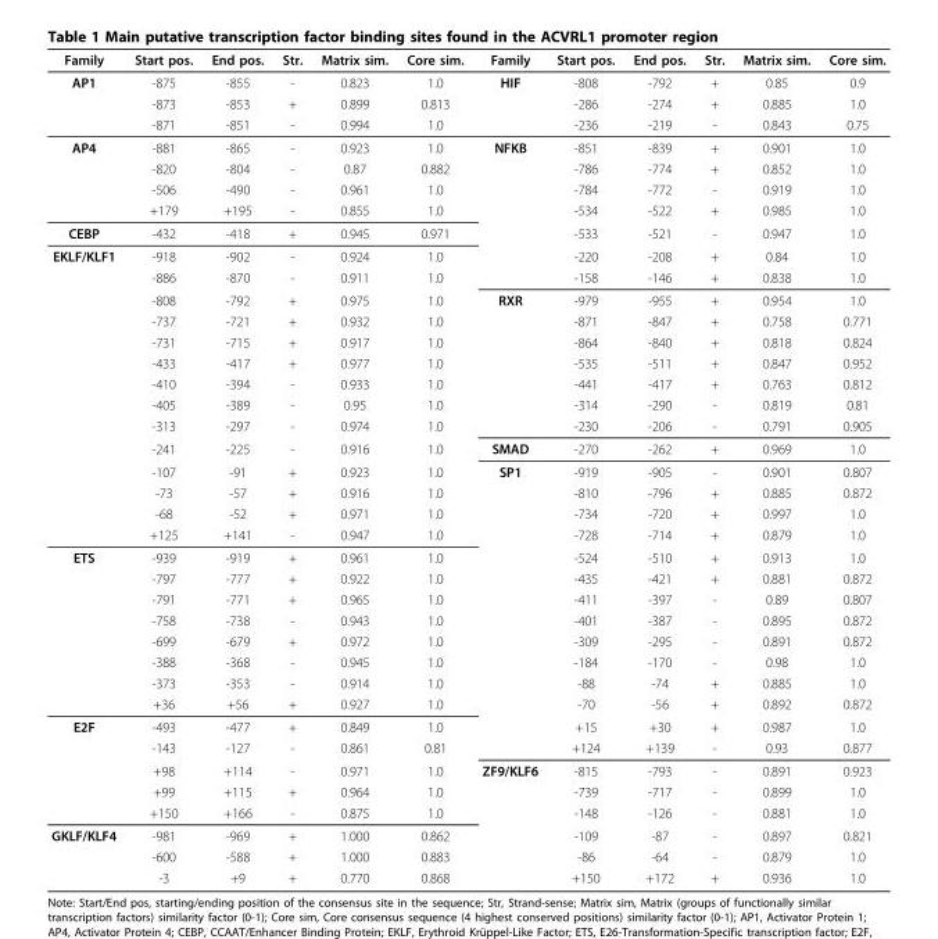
<table><thead><tr><td>Family</td><td>Start pos.</td><td>End pos.</td><td>Str.</td><td>Matrix sim.</td><td>Core sim.</td><td>Family</td><td>Start pos.</td><td>End pos.</td><td>Str.</td><td>Matrix sim.</td><td>Core sim.</td></tr></thead><tbody><tr><td rowspan="3">AP1</td><td>-875</td><td>-855</td><td>-</td><td>0.823</td><td>1.0</td><td>HIF</td><td>-808</td><td>-792</td><td>+</td><td>0.85</td><td>0.9</td></tr><tr><td>-873</td><td>-853</td><td>+</td><td>0.899</td><td>0.813</td><td></td><td>-286</td><td>-274</td><td>+</td><td>0.885</td><td>1.0</td></tr><tr><td>-871</td><td>-851</td><td>-</td><td>0.994</td><td>1.0</td><td></td><td>-236</td><td>-219</td><td>-</td><td>0.843</td><td>0.75</td></tr><tr><td rowspan="4">AP4</td><td>-881</td><td>-865</td><td>-</td><td>0.923</td><td>1.0</td><td>NFKB</td><td>-851</td><td>-839</td><td>+</td><td>0.901</td><td>1.0</td></tr><tr><td>-820</td><td>-804</td><td>-</td><td>0.87</td><td>0.882</td><td></td><td>-786</td><td>-774</td><td>+</td><td>0.852</td><td>1.0</td></tr><tr><td>-506</td><td>-490</td><td>-</td><td>0.961</td><td>1.0</td><td></td><td>-784</td><td>-772</td><td>-</td><td>0.919</td><td>1.0</td></tr><tr><td>+179</td><td>+195</td><td>-</td><td>0.855</td><td>1.0</td><td></td><td>-534</td><td>-522</td><td>+</td><td>0.985</td><td>1.0</td></tr><tr><td>CEBP</td><td>-432</td><td>-418</td><td>+</td><td>0.945</td><td>0.971</td><td></td><td>-533</td><td>-521</td><td>-</td><td>0.947</td><td>1.0</td></tr><tr><td rowspan="14">EKLF/KLF1</td><td>-918</td><td>-902</td><td>-</td><td>0.924</td><td>1.0</td><td></td><td>-220</td><td>-208</td><td>+</td><td>0.84</td><td>1.0</td></tr><tr><td>-886</td><td>-870</td><td>-</td><td>0.911</td><td>1.0</td><td></td><td>-158</td><td>-146</td><td>+</td><td>0.838</td><td>1.0</td></tr><tr><td>-808</td><td>-792</td><td>+</td><td>0.975</td><td>1.0</td><td>RXR</td><td>-979</td><td>-955</td><td>+</td><td>0.954</td><td>1.0</td></tr><tr><td>-737</td><td>-721</td><td>+</td><td>0.932</td><td>1.0</td><td></td><td>-871</td><td>-847</td><td>+</td><td>0.758</td><td>0.771</td></tr><tr><td>-731</td><td>-715</td><td>+</td><td>0.917</td><td>1.0</td><td></td><td>-864</td><td>-840</td><td>+</td><td>0.818</td><td>0.824</td></tr><tr><td>-433</td><td>-417</td><td>+</td><td>0.977</td><td>1.0</td><td></td><td>-535</td><td>-511</td><td>+</td><td>0.847</td><td>0.952</td></tr><tr><td>-410</td><td>-394</td><td>-</td><td>0.933</td><td>1.0</td><td></td><td>-441</td><td>-417</td><td>+</td><td>0.763</td><td>0.812</td></tr><tr><td>-405</td><td>-389</td><td>-</td><td>0.95</td><td>1.0</td><td></td><td>-314</td><td>-290</td><td>-</td><td>0.819</td><td>0.81</td></tr><tr><td>-313</td><td>-297</td><td>-</td><td>0.974</td><td>1.0</td><td></td><td>-230</td><td>-206</td><td>-</td><td>0.791</td><td>0.905</td></tr><tr><td>-241</td><td>-225</td><td>-</td><td>0.916</td><td>1.0</td><td>SMAD</td><td>-270</td><td>-262</td><td>+</td><td>0.969</td><td>1.0</td></tr><tr><td>-107</td><td>-91</td><td>+</td><td>0.923</td><td>1.0</td><td>SP1</td><td>-919</td><td>-905</td><td>-</td><td>0.901</td><td>0.807</td></tr><tr><td>-73</td><td>-57</td><td>+</td><td>0.916</td><td>1.0</td><td></td><td>-810</td><td>-796</td><td>+</td><td>0.885</td><td>0.872</td></tr><tr><td>-68</td><td>-52</td><td>+</td><td>0.971</td><td>1.0</td><td></td><td>-734</td><td>-720</td><td>+</td><td>0.997</td><td>1.0</td></tr><tr><td>+125</td><td>+141</td><td>-</td><td>0.947</td><td>1.0</td><td></td><td>-728</td><td>-714</td><td>+</td><td>0.879</td><td>1.0</td></tr><tr><td rowspan="8">ETS</td><td>-939</td><td>-919</td><td>+</td><td>0.961</td><td>1.0</td><td></td><td>-524</td><td>-510</td><td>+</td><td>0.913</td><td>1.0</td></tr><tr><td>-797</td><td>-777</td><td>+</td><td>0.922</td><td>1.0</td><td></td><td>-435</td><td>-421</td><td>+</td><td>0.881</td><td>0.872</td></tr><tr><td>-791</td><td>-771</td><td>+</td><td>0.965</td><td>1.0</td><td></td><td>-411</td><td>-397</td><td>-</td><td>0.89</td><td>0.807</td></tr><tr><td>-758</td><td>-738</td><td>-</td><td>0.943</td><td>1.0</td><td></td><td>-401</td><td>-387</td><td>-</td><td>0.895</td><td>0.872</td></tr><tr><td>-699</td><td>-679</td><td>+</td><td>0.972</td><td>1.0</td><td></td><td>-309</td><td>-295</td><td>-</td><td>0.891</td><td>0.872</td></tr><tr><td>-388</td><td>-368</td><td>-</td><td>0.945</td><td>1.0</td><td></td><td>-184</td><td>-170</td><td>-</td><td>0.98</td><td>1.0</td></tr><tr><td>-373</td><td>-353</td><td>-</td><td>0.914</td><td>1.0</td><td></td><td>-88</td><td>-74</td><td>+</td><td>0.885</td><td>1.0</td></tr><tr><td>+36</td><td>+56</td><td>+</td><td>0.927</td><td>1.0</td><td></td><td>-70</td><td>-56</td><td>+</td><td>0.892</td><td>0.872</td></tr><tr><td rowspan="5">E2F</td><td>-493</td><td>-477</td><td>+</td><td>0.849</td><td>1.0</td><td></td><td>+15</td><td>+30</td><td>+</td><td>0.987</td><td>1.0</td></tr><tr><td>-143</td><td>-127</td><td>-</td><td>0.861</td><td>0.81</td><td></td><td>+124</td><td>+139</td><td>-</td><td>0.93</td><td>0.877</td></tr><tr><td>+98</td><td>+114</td><td>-</td><td>0.971</td><td>1.0</td><td>ZF9/KLF6</td><td>-815</td><td>-793</td><td>-</td><td>0.891</td><td>0.923</td></tr><tr><td>+99</td><td>+115</td><td>+</td><td>0.964</td><td>1.0</td><td></td><td>-739</td><td>-717</td><td>-</td><td>0.899</td><td>1.0</td></tr><tr><td>+150</td><td>+166</td><td>-</td><td>0.875</td><td>1.0</td><td></td><td>-148</td><td>-126</td><td>-</td><td>0.881</td><td>1.0</td></tr><tr><td rowspan="3">GKLF/KLF4</td><td>-981</td><td>-969</td><td>+</td><td>1.000</td><td>0.862</td><td></td><td>-109</td><td>-87</td><td>-</td><td>0.897</td><td>0.821</td></tr><tr><td>-600</td><td>-588</td><td>+</td><td>1.000</td><td>0.883</td><td></td><td>-86</td><td>-64</td><td>-</td><td>0.879</td><td>1.0</td></tr><tr><td>-3</td><td>+9</td><td>+</td><td>0.770</td><td>0.868</td><td></td><td>+150</td><td>+172</td><td>+</td><td>0.936</td><td>1.0</td></tr></tbody></table>